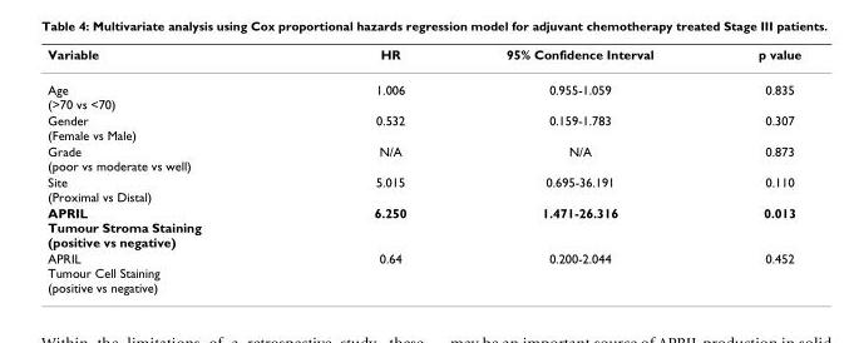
<table><thead><tr><td>Variable</td><td>HR</td><td>95% Confidence Interval</td><td>p value</td></tr></thead><tbody><tr><td>Age (&gt;70 vs &lt;70)</td><td>1.006</td><td>0.955-1.059</td><td>0.835</td></tr><tr><td>Gender (Female vs Male)</td><td>0.532</td><td>0.159-1.783</td><td>0.307</td></tr><tr><td>Grade (poor vs moderate vs well)</td><td>N/A</td><td>N/A</td><td>0.873</td></tr><tr><td>Site (Proximal vs Distal)</td><td>5.015</td><td>0.695-36.191</td><td>0.110</td></tr><tr><td>APRIL Tumour Stroma Staining (positive vs negative)</td><td>6.250</td><td>1.471-26.316</td><td>0.013</td></tr><tr><td>APRIL Tumour Cell Staining (positive vs negative)</td><td>0.64</td><td>0.200-2.044</td><td>0.452</td></tr></tbody></table>